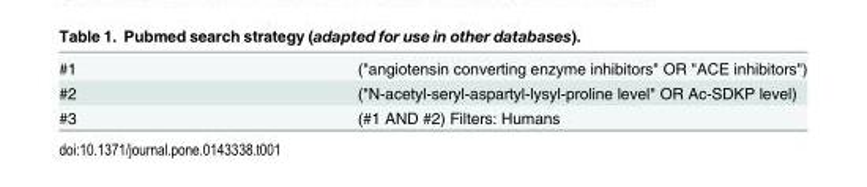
<table><tbody><tr><td>#1</td><td>(&quot;angiotensin converting enzyme inhibitors&quot; OR &quot;ACE inhibitors&quot;)</td></tr><tr><td>#2</td><td>(&quot;N-acetyl-seryl-aspartyl-lysyl-proline level&quot; OR Ac-SDKP level)</td></tr><tr><td>#3</td><td>(#1 AND #2) Filters: Humans</td></tr></tbody></table>